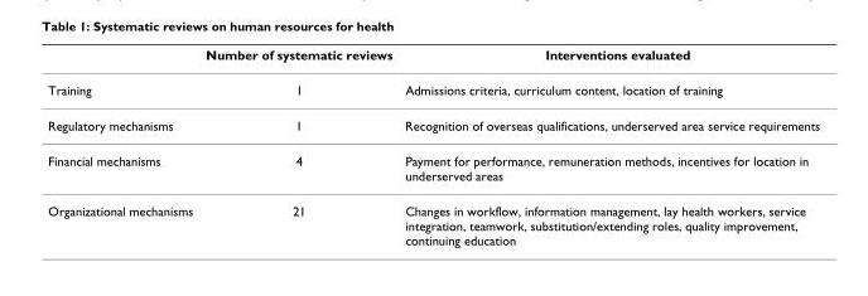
<table><thead><tr><td></td><td>Number of systematic reviews</td><td>Interventions evaluated</td></tr></thead><tbody><tr><td>Training</td><td>1</td><td>Admissions criteria, curriculum content, location of training</td></tr><tr><td>Regulatory mechanisms</td><td>1</td><td>Recognition of overseas qualifications, underserved area service requirements</td></tr><tr><td>Financial mechanisms</td><td>4</td><td>Payment for performance, remuneration methods, incentives for location in underserved areas</td></tr><tr><td>Organizational mechanisms</td><td>21</td><td>Changes in workflow, information management, lay health workers, service integration, teamwork, substitution/extending roles, quality improvement, continuing education</td></tr></tbody></table>